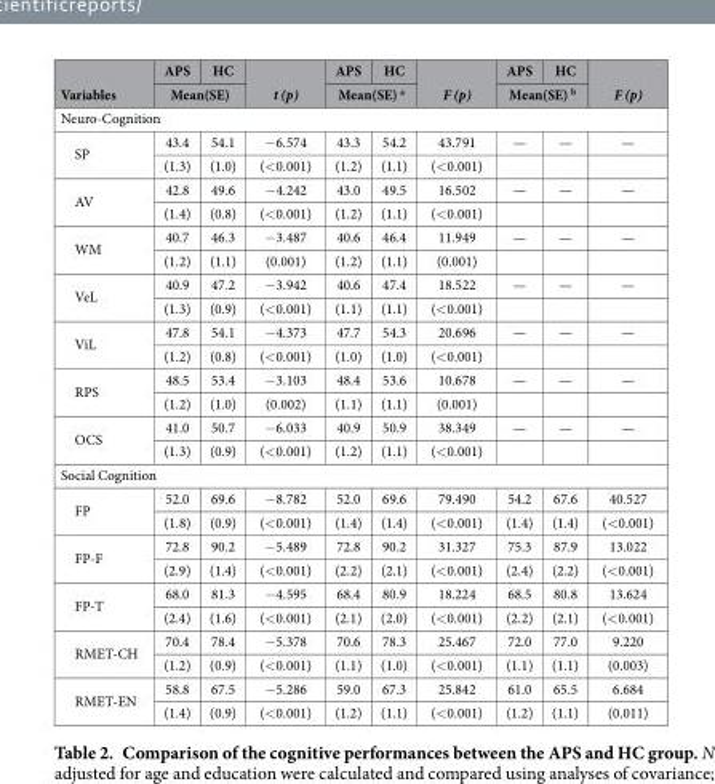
<table><thead><tr><td rowspan="2">Variables</td><td>APS</td><td>HC</td><td rowspan="2">t (p)</td><td>APS</td><td>HC</td><td rowspan="2">F (p)</td><td>APS</td><td>HC</td><td rowspan="2">F (p)</td></tr><tr><td colspan="2">Mean(SE)</td><td colspan="2">Mean(SE) <sup>a</sup></td><td colspan="2">Mean(SE) <sup>b</sup></td></tr></thead><tbody><tr><td colspan="10">Neuro-Cognition</td></tr><tr><td rowspan="2">SP</td><td>43.4</td><td>54.1</td><td>− 6.574</td><td>43.3</td><td>54.2</td><td>43.791</td><td>—</td><td>—</td><td>—</td></tr><tr><td>(1.3)</td><td>(1.0)</td><td>(&lt; 0.001)</td><td>(1.2)</td><td>(1.1)</td><td>(&lt; 0.001)</td><td></td><td></td><td></td></tr><tr><td rowspan="2">AV</td><td>42.8</td><td>49.6</td><td>− 4.242</td><td>43.0</td><td>49.5</td><td>16.502</td><td>—</td><td>—</td><td>—</td></tr><tr><td>(1.4)</td><td>(0.8)</td><td>(&lt; 0.001)</td><td>(1.2)</td><td>(1.1)</td><td>(&lt; 0.001)</td><td></td><td></td><td></td></tr><tr><td rowspan="2">WM</td><td>40.7</td><td>46.3</td><td>− 3.487</td><td>40.6</td><td>46.4</td><td>11.949</td><td>—</td><td>—</td><td>—</td></tr><tr><td>(1.2)</td><td>(1.1)</td><td>(0.001)</td><td>(1.2)</td><td>(1.1)</td><td>(0.001)</td><td></td><td></td><td></td></tr><tr><td rowspan="2">VeL</td><td>40.9</td><td>47.2</td><td>− 3.942</td><td>40.6</td><td>47.4</td><td>18.522</td><td>—</td><td>—</td><td>—</td></tr><tr><td>(1.3)</td><td>(0.9)</td><td>(&lt; 0.001)</td><td>(1.1)</td><td>(1.1)</td><td>(&lt; 0.001)</td><td></td><td></td><td></td></tr><tr><td rowspan="2">ViL</td><td>47.8</td><td>54.1</td><td>− 4.373</td><td>47.7</td><td>54.3</td><td>20.696</td><td>—</td><td>—</td><td>—</td></tr><tr><td>(1.2)</td><td>(0.8)</td><td>(&lt; 0.001)</td><td>(1.0)</td><td>(1.0)</td><td>(&lt; 0.001)</td><td></td><td></td><td></td></tr><tr><td rowspan="2">RPS</td><td>48.5</td><td>53.4</td><td>− 3.103</td><td>48.4</td><td>53.6</td><td>10.678</td><td>—</td><td>—</td><td>—</td></tr><tr><td>(1.2)</td><td>(1.0)</td><td>(0.002)</td><td>(1.1)</td><td>(1.1)</td><td>(0.001)</td><td></td><td></td><td></td></tr><tr><td rowspan="2">OCS</td><td>41.0</td><td>50.7</td><td>− 6.033</td><td>40.9</td><td>50.9</td><td>38.349</td><td>—</td><td>—</td><td>—</td></tr><tr><td>(1.3)</td><td>(0.9)</td><td>(&lt; 0.001)</td><td>(1.2)</td><td>(1.1)</td><td>(&lt; 0.001)</td><td></td><td></td><td></td></tr><tr><td colspan="10">Social Cognition</td></tr><tr><td rowspan="2">FP</td><td>52.0</td><td>69.6</td><td>− 8.782</td><td>52.0</td><td>69.6</td><td>79.490</td><td>54.2</td><td>67.6</td><td>40.527</td></tr><tr><td>(1.8)</td><td>(0.9)</td><td>(&lt; 0.001)</td><td>(1.4)</td><td>(1.4)</td><td>(&lt; 0.001)</td><td>(1.4)</td><td>(1.4)</td><td>(&lt; 0.001)</td></tr><tr><td rowspan="2">FP-F</td><td>72.8</td><td>90.2</td><td>− 5.489</td><td>72.8</td><td>90.2</td><td>31.327</td><td>75.3</td><td>87.9</td><td>13.022</td></tr><tr><td>(2.9)</td><td>(1.4)</td><td>(&lt; 0.001)</td><td>(2.2)</td><td>(2.1)</td><td>(&lt; 0.001)</td><td>(2.4)</td><td>(2.2)</td><td>(&lt; 0.001)</td></tr><tr><td rowspan="2">FP-T</td><td>68.0</td><td>81.3</td><td>− 4.595</td><td>68.4</td><td>80.9</td><td>18.224</td><td>68.5</td><td>80.8</td><td>13.624</td></tr><tr><td>(2.4)</td><td>(1.6)</td><td>(&lt; 0.001)</td><td>(2.1)</td><td>(2.0)</td><td>(&lt; 0.001)</td><td>(2.2)</td><td>(2.1)</td><td>(&lt; 0.001)</td></tr><tr><td rowspan="2">RMET-CH</td><td>70.4</td><td>78.4</td><td>− 5.378</td><td>70.6</td><td>78.3</td><td>25.467</td><td>72.0</td><td>77.0</td><td>9.220</td></tr><tr><td>(1.2)</td><td>(0.9)</td><td>(&lt; 0.001)</td><td>(1.1)</td><td>(1.0)</td><td>(&lt; 0.001)</td><td>(1.1)</td><td>(1.1)</td><td>(0.003)</td></tr><tr><td rowspan="2">RMET-EN</td><td>58.8</td><td>67.5</td><td>− 5.286</td><td>59.0</td><td>67.3</td><td>25.842</td><td>61.0</td><td>65.5</td><td>6.684</td></tr><tr><td>(1.4)</td><td>(0.9)</td><td>(&lt; 0.001)</td><td>(1.2)</td><td>(1.1)</td><td>(&lt; 0.001)</td><td>(1.2)</td><td>(1.1)</td><td>(0.011)</td></tr></tbody></table>